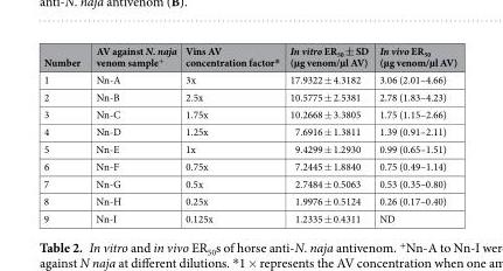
<table><thead><tr><td>Number</td><td>AV against N. naja venom sample<sup>+</sup></td><td>Vins AV concentration factor*</td><td>In vitro ER<sub>50</sub> ± SD (µg venom/µl AV)</td><td>In vivo ER<sub>50</sub> (µg venom/µl AV)</td></tr></thead><tbody><tr><td>1</td><td>Nn-A</td><td>3x</td><td>17.9322 ± 4.3182</td><td>3.06 (2.01–4.66)</td></tr><tr><td>2</td><td>Nn-B</td><td>2.5x</td><td>10.5775 ± 2.5381</td><td>2.78 (1.83–4.23)</td></tr><tr><td>3</td><td>Nn-C</td><td>1.75x</td><td>10.2668 ± 3.3805</td><td>1.75 (1.15–2.66)</td></tr><tr><td>4</td><td>Nn-D</td><td>1.25x</td><td>7.6916 ± 1.3811</td><td>1.39 (0.91–2.11)</td></tr><tr><td>5</td><td>Nn-E</td><td>1x</td><td>9.4299 ± 1.2930</td><td>0.99 (0.65–1.51)</td></tr><tr><td>6</td><td>Nn-F</td><td>0.75x</td><td>7.2445 ± 1.8840</td><td>0.75 (0.49–1.14)</td></tr><tr><td>7</td><td>Nn-G</td><td>0.5x</td><td>2.7484 ± 0.5063</td><td>0.53 (0.35–0.80)</td></tr><tr><td>8</td><td>Nn-H</td><td>0.25x</td><td>1.9976 ± 0.5124</td><td>0.26 (0.17–0.40)</td></tr><tr><td>9</td><td>Nn-I</td><td>0.125x</td><td>1.2335 ± 0.4311</td><td>ND</td></tr></tbody></table>